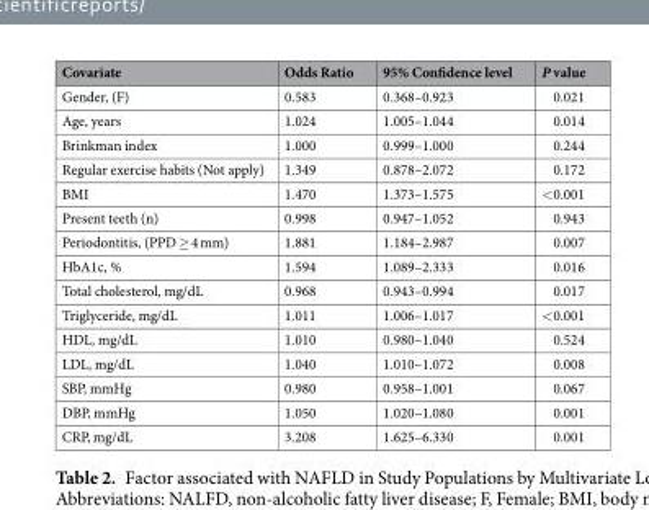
<table><thead><tr><td>Covariate</td><td>Odds Ratio</td><td>95% Confidence level</td><td>P value</td></tr></thead><tbody><tr><td>Gender, (F)</td><td>0.583</td><td>0.368–0.923</td><td>0.021</td></tr><tr><td>Age, years</td><td>1.024</td><td>1.005–1.044</td><td>0.014</td></tr><tr><td>Brinkman index</td><td>1.000</td><td>0.999–1.000</td><td>0.244</td></tr><tr><td>Regular exercise habits (Not apply)</td><td>1.349</td><td>0.878–2.072</td><td>0.172</td></tr><tr><td>BMI</td><td>1.470</td><td>1.373–1.575</td><td>&lt;0.001</td></tr><tr><td>Present teeth (n)</td><td>0.998</td><td>0.947–1.052</td><td>0.943</td></tr><tr><td>Periodontitis, (PPD ≥ 4 mm)</td><td>1.881</td><td>1.184–2.987</td><td>0.007</td></tr><tr><td>HbA1c, %</td><td>1.594</td><td>1.089–2.333</td><td>0.016</td></tr><tr><td>Total cholesterol, mg/dL</td><td>0.968</td><td>0.943–0.994</td><td>0.017</td></tr><tr><td>Triglyceride, mg/dL</td><td>1.011</td><td>1.006–1.017</td><td>&lt;0.001</td></tr><tr><td>HDL, mg/dL</td><td>1.010</td><td>0.980–1.040</td><td>0.524</td></tr><tr><td>LDL, mg/dL</td><td>1.040</td><td>1.010–1.072</td><td>0.008</td></tr><tr><td>SBP, mmHg</td><td>0.980</td><td>0.958–1.001</td><td>0.067</td></tr><tr><td>DBP, mmHg</td><td>1.050</td><td>1.020–1.080</td><td>0.001</td></tr><tr><td>CRP, mg/dL</td><td>3.208</td><td>1.625–6.330</td><td>0.001</td></tr></tbody></table>